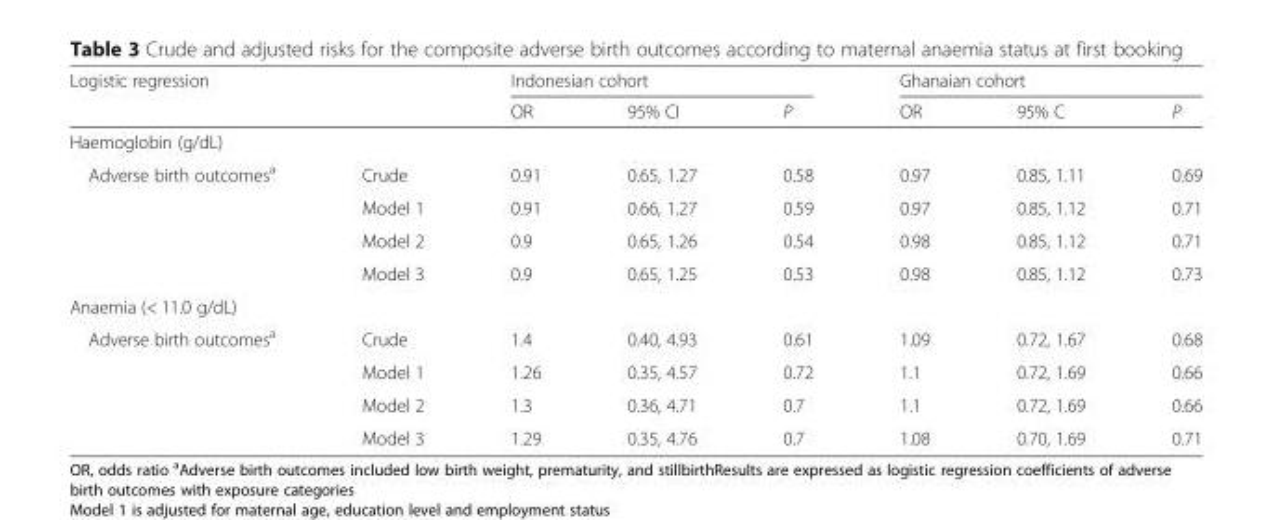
<table><thead><tr><td colspan="2">Logistic regression</td><td colspan="3">Indonesian cohort</td><td colspan="3">Ghanaian cohort</td></tr><tr><td></td><td></td><td>OR</td><td>95% CI</td><td>P</td><td>OR</td><td>95% C</td><td>P</td></tr></thead><tbody><tr><td colspan="8">Haemoglobin (g/dL)</td></tr><tr><td rowspan="4">Adverse birth outcomes<sup>a</sup></td><td>Crude</td><td>0.91</td><td>0.65, 1.27</td><td>0.58</td><td>0.97</td><td>0.85, 1.11</td><td>0.69</td></tr><tr><td>Model 1</td><td>0.91</td><td>0.66, 1.27</td><td>0.59</td><td>0.97</td><td>0.85, 1.12</td><td>0.71</td></tr><tr><td>Model 2</td><td>0.9</td><td>0.65, 1.26</td><td>0.54</td><td>0.98</td><td>0.85, 1.12</td><td>0.71</td></tr><tr><td>Model 3</td><td>0.9</td><td>0.65, 1.25</td><td>0.53</td><td>0.98</td><td>0.85, 1.12</td><td>0.73</td></tr><tr><td colspan="8">Anaemia (&lt; 11.0 g/dL)</td></tr><tr><td rowspan="4">Adverse birth outcomes<sup>a</sup></td><td>Crude</td><td>1.4</td><td>0.40, 4.93</td><td>0.61</td><td>1.09</td><td>0.72, 1.67</td><td>0.68</td></tr><tr><td>Model 1</td><td>1.26</td><td>0.35, 4.57</td><td>0.72</td><td>1.1</td><td>0.72, 1.69</td><td>0.66</td></tr><tr><td>Model 2</td><td>1.3</td><td>0.36, 4.71</td><td>0.7</td><td>1.1</td><td>0.72, 1.69</td><td>0.66</td></tr><tr><td>Model 3</td><td>1.29</td><td>0.35, 4.76</td><td>0.7</td><td>1.08</td><td>0.70, 1.69</td><td>0.71</td></tr></tbody></table>